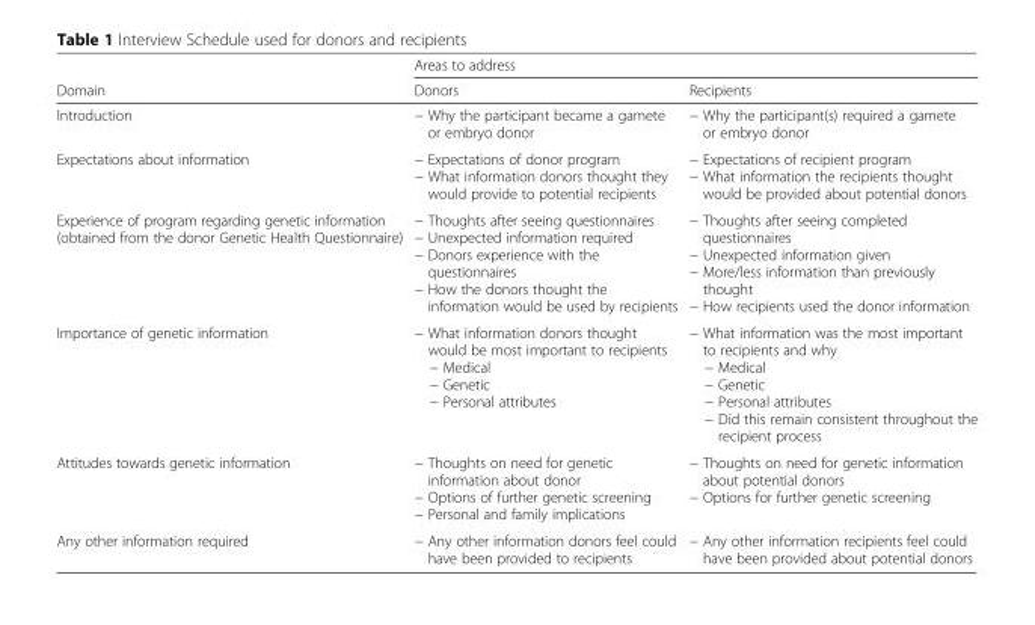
<table><thead><tr><td rowspan="2">Domain</td><td colspan="2">Areas to address</td></tr><tr><td>Donors</td><td>Recipients</td></tr></thead><tbody><tr><td>Introduction</td><td>− Why the participant became a gamete or embryo donor</td><td>− Why the participant(s) required a gamete or embryo donor</td></tr><tr><td>Expectations about information</td><td>− Expectations of donor program − What information donors thought they would provide to potential recipients</td><td>− Expectations of recipient program − What information the recipients thought would be provided about potential donors</td></tr><tr><td>Experience of program regarding genetic information (obtained from the donor Genetic Health Questionnaire)</td><td>− Thoughts after seeing questionnaires − Unexpected information required − Donors experience with the questionnaires − How the donors thought the information would be used by recipients</td><td>− Thoughts after seeing completed questionnaires − Unexpected information given − More/less information than previously thought − How recipients used the donor information</td></tr><tr><td>Importance of genetic information</td><td>− What information donors thought would be most important to recipients − Medical − Genetic − Personal attributes</td><td>− What information was the most important to recipients and why − Medical − Genetic − Personal attributes − Did this remain consistent throughout the recipient process</td></tr><tr><td>Attitudes towards genetic information</td><td>− Thoughts on need for genetic information about donor − Options of further genetic screening − Personal and family implications</td><td>− Thoughts on need for genetic information about potential donors − Options for further genetic screening</td></tr><tr><td>Any other information required</td><td>− Any other information donors feel could have been provided to recipients</td><td>− Any other information recipients feel could have been provided about potential donors</td></tr></tbody></table>